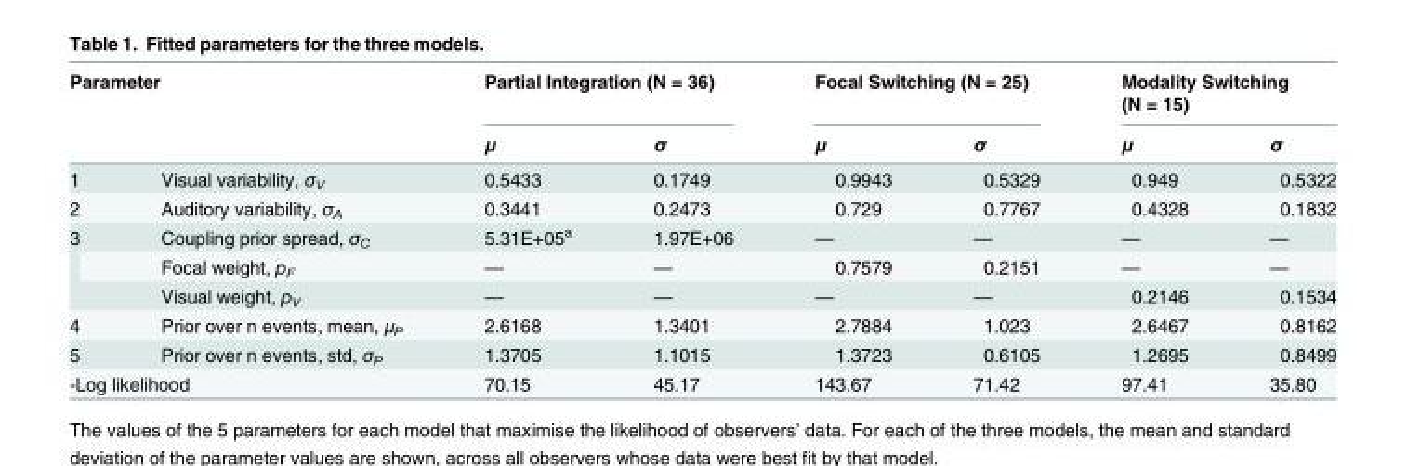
<table><thead><tr><td colspan="2">Parameter</td><td colspan="2">Partial Integration (N = 36)</td><td colspan="2">Focal Switching (N = 25)</td><td colspan="2">Modality Switching (N = 15)</td></tr><tr><td></td><td></td><td>μ</td><td>σ</td><td>μ</td><td>σ</td><td>μ</td><td>σ</td></tr></thead><tbody><tr><td>1</td><td>Visual variability, σ<sub>V</sub></td><td>0.5433</td><td>0.1749</td><td>0.9943</td><td>0.5329</td><td>0.949</td><td>0.5322</td></tr><tr><td>2</td><td>Auditory variability, σ<sub>A</sub></td><td>0.3441</td><td>0.2473</td><td>0.729</td><td>0.7767</td><td>0.4328</td><td>0.1832</td></tr><tr><td rowspan="3">3</td><td>Coupling prior spread, σ<sub>C</sub></td><td>5.31E+05<sup>a</sup></td><td>1.97E+06</td><td>—</td><td>—</td><td>—</td><td>—</td></tr><tr><td>Focal weight, p<sub>F</sub></td><td>—</td><td>—</td><td>0.7579</td><td>0.2151</td><td>—</td><td>—</td></tr><tr><td>Visual weight, p<sub>V</sub></td><td>—</td><td>—</td><td>—</td><td>—</td><td>0.2146</td><td>0.1534</td></tr><tr><td>4</td><td>Prior over n events, mean, μ<sub>P</sub></td><td>2.6168</td><td>1.3401</td><td>2.7884</td><td>1.023</td><td>2.6467</td><td>0.8162</td></tr><tr><td>5</td><td>Prior over n events, std, σ<sub>P</sub></td><td>1.3705</td><td>1.1015</td><td>1.3723</td><td>0.6105</td><td>1.2695</td><td>0.8499</td></tr><tr><td colspan="2">-Log likelihood</td><td>70.15</td><td>45.17</td><td>143.67</td><td>71.42</td><td>97.41</td><td>35.80</td></tr></tbody></table>